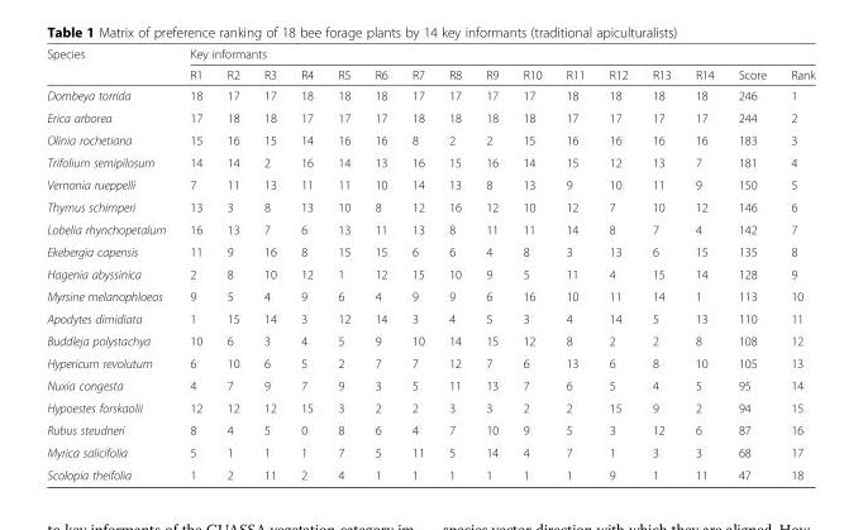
<table><thead><tr><td rowspan="2">Species</td><td colspan="16">Key informants</td></tr><tr><td>R1</td><td>R2</td><td>R3</td><td>R4</td><td>R5</td><td>R6</td><td>R7</td><td>R8</td><td>R9</td><td>R10</td><td>R11</td><td>R12</td><td>R13</td><td>R14</td><td>Score</td><td>Rank</td></tr></thead><tbody><tr><td>Dombeya torrida</td><td>18</td><td>17</td><td>17</td><td>18</td><td>18</td><td>18</td><td>17</td><td>17</td><td>17</td><td>17</td><td>18</td><td>18</td><td>18</td><td>18</td><td>246</td><td>1</td></tr><tr><td>Erica arborea</td><td>17</td><td>18</td><td>18</td><td>17</td><td>17</td><td>17</td><td>18</td><td>18</td><td>18</td><td>18</td><td>17</td><td>17</td><td>17</td><td>17</td><td>244</td><td>2</td></tr><tr><td>Olinia rochetiana</td><td>15</td><td>16</td><td>15</td><td>14</td><td>16</td><td>16</td><td>8</td><td>2</td><td>2</td><td>15</td><td>16</td><td>16</td><td>16</td><td>16</td><td>183</td><td>3</td></tr><tr><td>Trifolium semipilosum</td><td>14</td><td>14</td><td>2</td><td>16</td><td>14</td><td>13</td><td>16</td><td>15</td><td>16</td><td>14</td><td>15</td><td>12</td><td>13</td><td>7</td><td>181</td><td>4</td></tr><tr><td>Vernonia rueppelli</td><td>7</td><td>11</td><td>13</td><td>11</td><td>11</td><td>10</td><td>14</td><td>13</td><td>8</td><td>13</td><td>9</td><td>10</td><td>11</td><td>9</td><td>150</td><td>5</td></tr><tr><td>Thymus schimperi</td><td>13</td><td>3</td><td>8</td><td>13</td><td>10</td><td>8</td><td>12</td><td>16</td><td>12</td><td>10</td><td>12</td><td>7</td><td>10</td><td>12</td><td>146</td><td>6</td></tr><tr><td>Lobelia rhynchopetalum</td><td>16</td><td>13</td><td>7</td><td>6</td><td>13</td><td>11</td><td>13</td><td>8</td><td>11</td><td>11</td><td>14</td><td>8</td><td>7</td><td>4</td><td>142</td><td>7</td></tr><tr><td>Ekebergia capensis</td><td>11</td><td>9</td><td>16</td><td>8</td><td>15</td><td>15</td><td>6</td><td>6</td><td>4</td><td>8</td><td>3</td><td>13</td><td>6</td><td>15</td><td>135</td><td>8</td></tr><tr><td>Hagenia abyssinica</td><td>2</td><td>8</td><td>10</td><td>12</td><td>1</td><td>12</td><td>15</td><td>10</td><td>9</td><td>5</td><td>11</td><td>4</td><td>15</td><td>14</td><td>128</td><td>9</td></tr><tr><td>Myrsine melanophloeos</td><td>9</td><td>5</td><td>4</td><td>9</td><td>6</td><td>4</td><td>9</td><td>9</td><td>6</td><td>16</td><td>10</td><td>11</td><td>14</td><td>1</td><td>113</td><td>10</td></tr><tr><td>Apodytes dimidiata</td><td>1</td><td>15</td><td>14</td><td>3</td><td>12</td><td>14</td><td>3</td><td>4</td><td>5</td><td>3</td><td>4</td><td>14</td><td>5</td><td>13</td><td>110</td><td>11</td></tr><tr><td>Buddleja polystachya</td><td>10</td><td>6</td><td>3</td><td>4</td><td>5</td><td>9</td><td>10</td><td>14</td><td>15</td><td>12</td><td>8</td><td>2</td><td>2</td><td>8</td><td>108</td><td>12</td></tr><tr><td>Hypericum revolutum</td><td>6</td><td>10</td><td>6</td><td>5</td><td>2</td><td>7</td><td>7</td><td>12</td><td>7</td><td>6</td><td>13</td><td>6</td><td>8</td><td>10</td><td>105</td><td>13</td></tr><tr><td>Nuxia congesta</td><td>4</td><td>7</td><td>9</td><td>7</td><td>9</td><td>3</td><td>5</td><td>11</td><td>13</td><td>7</td><td>6</td><td>5</td><td>4</td><td>5</td><td>95</td><td>14</td></tr><tr><td>Hypoestes forskaolii</td><td>12</td><td>12</td><td>12</td><td>15</td><td>3</td><td>2</td><td>2</td><td>3</td><td>3</td><td>2</td><td>2</td><td>15</td><td>9</td><td>2</td><td>94</td><td>15</td></tr><tr><td>Rubus steudneri</td><td>8</td><td>4</td><td>5</td><td>0</td><td>8</td><td>6</td><td>4</td><td>7</td><td>10</td><td>9</td><td>5</td><td>3</td><td>12</td><td>6</td><td>87</td><td>16</td></tr><tr><td>Myrica salicifolia</td><td>5</td><td>1</td><td>1</td><td>1</td><td>7</td><td>5</td><td>11</td><td>5</td><td>14</td><td>4</td><td>7</td><td>1</td><td>3</td><td>3</td><td>68</td><td>17</td></tr><tr><td>Scolopia theifolia</td><td>1</td><td>2</td><td>11</td><td>2</td><td>4</td><td>1</td><td>1</td><td>1</td><td>1</td><td>1</td><td>1</td><td>9</td><td>1</td><td>11</td><td>47</td><td>18</td></tr></tbody></table>